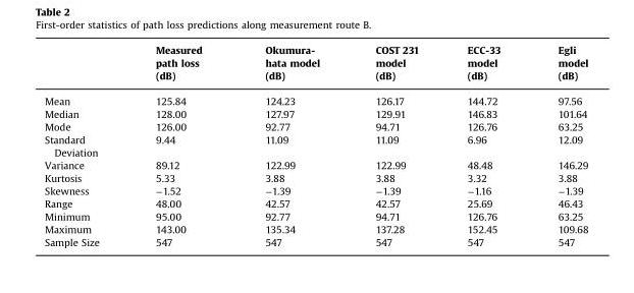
<table><thead><tr><td></td><td>Measured path loss (dB)</td><td>Okumura- hata model (dB)</td><td>COST 231 model (dB)</td><td>ECC-33 model (dB)</td><td>Egli model (dB)</td></tr></thead><tbody><tr><td>Mean</td><td>125.84</td><td>124.23</td><td>126.17</td><td>144.72</td><td>97.56</td></tr><tr><td>Median</td><td>128.00</td><td>127.97</td><td>129.91</td><td>146.83</td><td>101.64</td></tr><tr><td>Mode</td><td>126.00</td><td>92.77</td><td>94.71</td><td>126.76</td><td>63.25</td></tr><tr><td>Standard Deviation</td><td>9.44</td><td>11.09</td><td>11.09</td><td>6.96</td><td>12.09</td></tr><tr><td>Variance</td><td>89.12</td><td>122.99</td><td>122.99</td><td>48.48</td><td>146.29</td></tr><tr><td>Kurtosis</td><td>5.33</td><td>3.88</td><td>3.88</td><td>3.32</td><td>3.88</td></tr><tr><td>Skewness</td><td>−1.52</td><td>−1.39</td><td>−1.39</td><td>−1.16</td><td>−1.39</td></tr><tr><td>Range</td><td>48.00</td><td>42.57</td><td>42.57</td><td>25.69</td><td>46.43</td></tr><tr><td>Minimum</td><td>95.00</td><td>92.77</td><td>94.71</td><td>126.76</td><td>63.25</td></tr><tr><td>Maximum</td><td>143.00</td><td>135.34</td><td>137.28</td><td>152.45</td><td>109.68</td></tr><tr><td>Sample Size</td><td>547</td><td>547</td><td>547</td><td>547</td><td>547</td></tr></tbody></table>